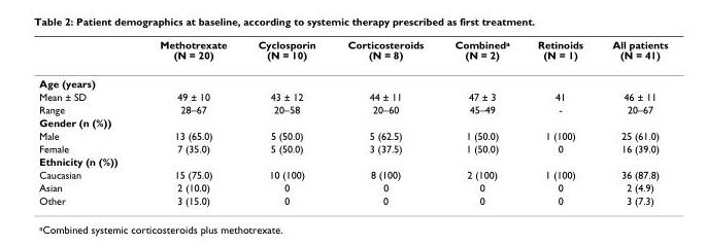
<table><thead><tr><td></td><td>Methotrexate (N = 20)</td><td>Cyclosporin (N = 10)</td><td>Corticosteroids (N = 8)</td><td>Combineda (N = 2)</td><td>Retinoids (N = 1)</td><td>All patients (N = 41)</td></tr></thead><tbody><tr><td colspan="7">Age (years)</td></tr><tr><td>Mean ± SD</td><td>49 ± 10</td><td>43 ± 12</td><td>44 ± 11</td><td>47 ± 3</td><td>41</td><td>46 ± 11</td></tr><tr><td>Range</td><td>28–67</td><td>20–58</td><td>20–60</td><td>45–49</td><td>-</td><td>20–67</td></tr><tr><td colspan="7">Gender (n (%))</td></tr><tr><td>Male</td><td>13 (65.0)</td><td>5 (50.0)</td><td>5 (62.5)</td><td>1 (50.0)</td><td>1 (100)</td><td>25 (61.0)</td></tr><tr><td>Female</td><td>7 (35.0)</td><td>5 (50.0)</td><td>3 (37.5)</td><td>1 (50.0)</td><td>0</td><td>16 (39.0)</td></tr><tr><td colspan="7">Ethnicity (n (%))</td></tr><tr><td>Caucasian</td><td>15 (75.0)</td><td>10 (100)</td><td>8 (100)</td><td>2 (100)</td><td>1 (100)</td><td>36 (87.8)</td></tr><tr><td>Asian</td><td>2 (10.0)</td><td>0</td><td>0</td><td>0</td><td>0</td><td>2 (4.9)</td></tr><tr><td>Other</td><td>3 (15.0)</td><td>0</td><td>0</td><td>0</td><td>0</td><td>3 (7.3)</td></tr></tbody></table>